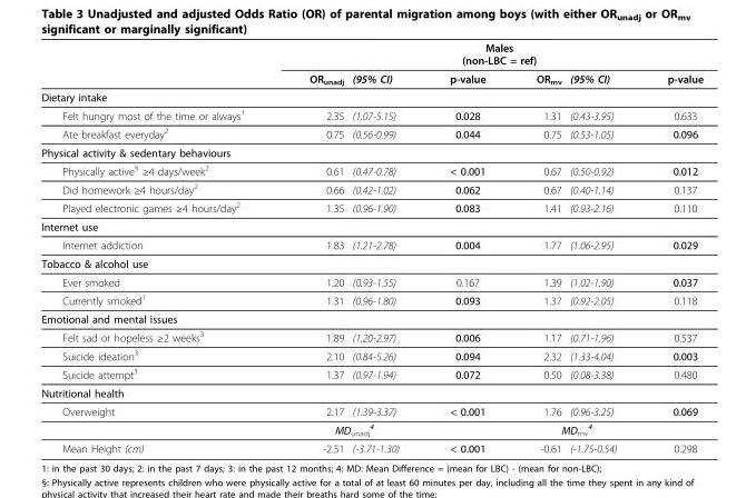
<table><thead><tr><td rowspan="2"></td><td colspan="6">Males (non-LBC = ref)</td></tr><tr><td>OR<sub>unadj</sub></td><td>(95% CI)</td><td>p-value</td><td>OR<sub>mv</sub></td><td>(95% CI)</td><td>p-value</td></tr></thead><tbody><tr><td colspan="7">Dietary intake</td></tr><tr><td>Felt hungry most of the time or always<sup>1</sup></td><td>2.35</td><td>(1.07-5.15)</td><td>0.028</td><td>1.31</td><td>(0.43-3.95)</td><td>0.633</td></tr><tr><td>Ate breakfast everyday<sup>2</sup></td><td>0.75</td><td>(0.56-0.99)</td><td>0.044</td><td>0.75</td><td>(0.53-1.05)</td><td>0.096</td></tr><tr><td colspan="7">Physical activity &amp; sedentary behaviours</td></tr><tr><td>Physically active<sup>§</sup> ≥4 days/week<sup>2</sup></td><td>0.61</td><td>(0.47-0.78)</td><td>&lt; 0.001</td><td>0.67</td><td>(0.50-0.92)</td><td>0.012</td></tr><tr><td>Did homework ≥4 hours/day<sup>2</sup></td><td>0.66</td><td>(0.42-1.02)</td><td>0.062</td><td>0.67</td><td>(0.40-1.14)</td><td>0.137</td></tr><tr><td>Played electronic games ≥4 hours/day<sup>2</sup></td><td>1.35</td><td>(0.96-1.90)</td><td>0.083</td><td>1.41</td><td>(0.93-2.16)</td><td>0.110</td></tr><tr><td colspan="7">Internet use</td></tr><tr><td>Internet addiction</td><td>1.83</td><td>(1.21-2.78)</td><td>0.004</td><td>1.77</td><td>(1.06-2.95)</td><td>0.029</td></tr><tr><td colspan="7">Tobacco &amp; alcohol use</td></tr><tr><td>Ever smoked</td><td>1.20</td><td>(0.93-1.55)</td><td>0.167</td><td>1.39</td><td>(1.02-1.90)</td><td>0.037</td></tr><tr><td>Currently smoked<sup>1</sup></td><td>1.31</td><td>(0.96-1.80)</td><td>0.093</td><td>1.37</td><td>(0.92-2.05)</td><td>0.118</td></tr><tr><td colspan="7">Emotional and mental issues</td></tr><tr><td>Felt sad or hopeless ≥2 weeks<sup>3</sup></td><td>1.89</td><td>(1.20-2.97)</td><td>0.006</td><td>1.17</td><td>(0.71-1.96)</td><td>0.537</td></tr><tr><td>Suicide ideation<sup>3</sup></td><td>2.10</td><td>(0.84-5.26)</td><td>0.094</td><td>2.32</td><td>(1.33-4.04)</td><td>0.003</td></tr><tr><td>Suicide attempt<sup>3</sup></td><td>1.37</td><td>(0.97-1.94)</td><td>0.072</td><td>0.50</td><td>(0.08-3.38)</td><td>0.480</td></tr><tr><td colspan="7">Nutritional health</td></tr><tr><td rowspan="2">Overweight</td><td>2.17</td><td>(1.39-3.37)</td><td>&lt; 0.001</td><td>1.76</td><td>(0.96-3.25)</td><td>0.069</td></tr><tr><td colspan="2">MD<sub>unadj</sub> <sup>4</sup></td><td></td><td colspan="2">MD<sub>mv</sub> <sup>4</sup></td><td></td></tr><tr><td>Mean Height (cm)</td><td>-2.51</td><td>(-3.71-1.30)</td><td>&lt; 0.001</td><td>-0.61</td><td>(-1.75-0.54)</td><td>0.298</td></tr></tbody></table>